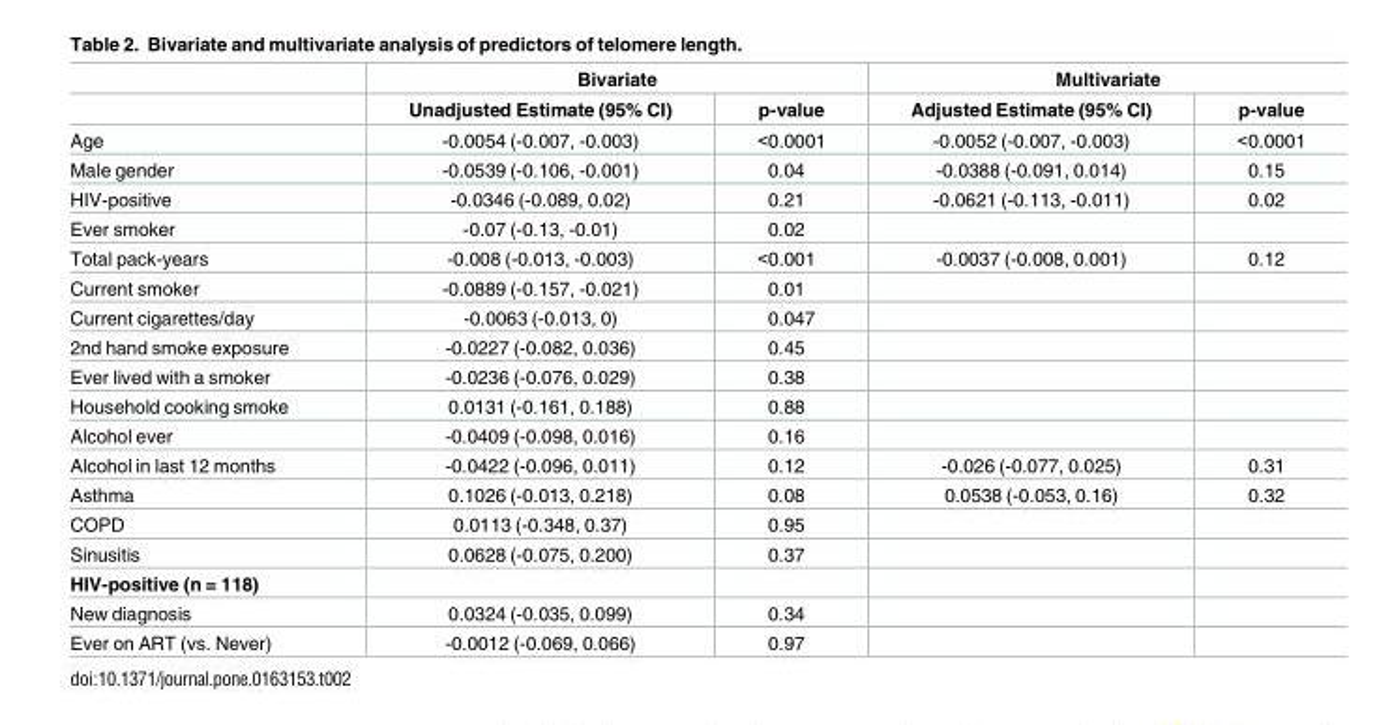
<table><thead><tr><td rowspan="2"></td><td colspan="2">Bivariate</td><td colspan="2">Multivariate</td></tr><tr><td>Unadjusted Estimate (95% CI)</td><td>p-value</td><td>Adjusted Estimate (95% CI)</td><td>p-value</td></tr></thead><tbody><tr><td>Age</td><td>-0.0054 (-0.007, -0.003)</td><td>&lt;0.0001</td><td>-0.0052 (-0.007, -0.003)</td><td>&lt;0.0001</td></tr><tr><td>Male gender</td><td>-0.0539 (-0.106, -0.001)</td><td>0.04</td><td>-0.0388 (-0.091, 0.014)</td><td>0.15</td></tr><tr><td>HIV-positive</td><td>-0.0346 (-0.089, 0.02)</td><td>0.21</td><td>-0.0621 (-0.113, -0.011)</td><td>0.02</td></tr><tr><td>Ever smoker</td><td>-0.07 (-0.13, -0.01)</td><td>0.02</td><td></td><td></td></tr><tr><td>Total pack-years</td><td>-0.008 (-0.013, -0.003)</td><td>&lt;0.001</td><td>-0.0037 (-0.008, 0.001)</td><td>0.12</td></tr><tr><td>Current smoker</td><td>-0.0889 (-0.157, -0.021)</td><td>0.01</td><td></td><td></td></tr><tr><td>Current cigarettes/day</td><td>-0.0063 (-0.013, 0)</td><td>0.047</td><td></td><td></td></tr><tr><td>2nd hand smoke exposure</td><td>-0.0227 (-0.082, 0.036)</td><td>0.45</td><td></td><td></td></tr><tr><td>Ever lived with a smoker</td><td>-0.0236 (-0.076, 0.029)</td><td>0.38</td><td></td><td></td></tr><tr><td>Household cooking smoke</td><td>0.0131 (-0.161, 0.188)</td><td>0.88</td><td></td><td></td></tr><tr><td>Alcohol ever</td><td>-0.0409 (-0.098, 0.016)</td><td>0.16</td><td></td><td></td></tr><tr><td>Alcohol in last 12 months</td><td>-0.0422 (-0.096, 0.011)</td><td>0.12</td><td>-0.026 (-0.077, 0.025)</td><td>0.31</td></tr><tr><td>Asthma</td><td>0.1026 (-0.013, 0.218)</td><td>0.08</td><td>0.0538 (-0.053, 0.16)</td><td>0.32</td></tr><tr><td>COPD</td><td>0.0113 (-0.348, 0.37)</td><td>0.95</td><td></td><td></td></tr><tr><td>Sinusitis</td><td>0.0628 (-0.075, 0.200)</td><td>0.37</td><td></td><td></td></tr><tr><td colspan="5">HIV-positive (n = 118)</td></tr><tr><td>New diagnosis</td><td>0.0324 (-0.035, 0.099)</td><td>0.34</td><td></td><td></td></tr><tr><td>Ever on ART (vs. Never)</td><td>-0.0012 (-0.069, 0.066)</td><td>0.97</td><td></td><td></td></tr></tbody></table>